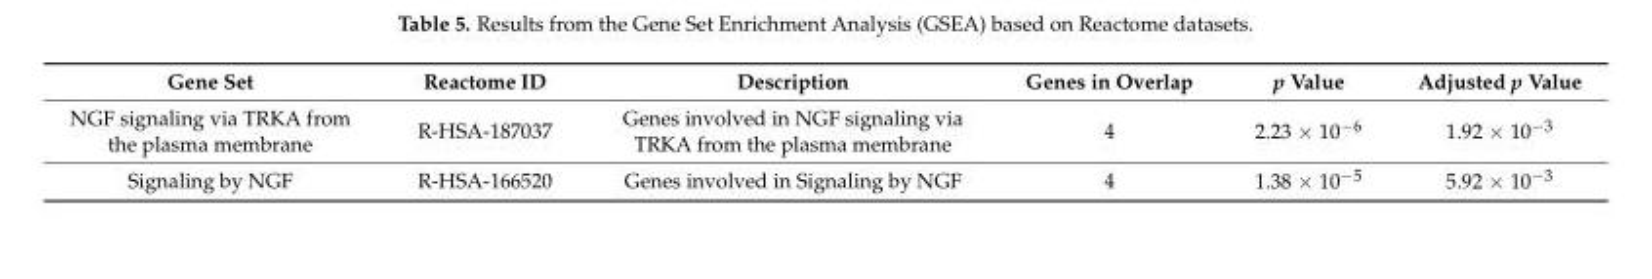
<table><thead><tr><td>Gene Set</td><td>Reactome ID</td><td>Description</td><td>Genes in Overlap</td><td>p Value</td><td>Adjusted p Value</td></tr></thead><tbody><tr><td>NGF signaling via TRKA from the plasma membrane</td><td>R-HSA-187037</td><td>Genes involved in NGF signaling via TRKA from the plasma membrane</td><td>4</td><td>2.23 × 10<sup>−6</sup></td><td>1.92 × 10<sup>−3</sup></td></tr><tr><td>Signaling by NGF</td><td>R-HSA-166520</td><td>Genes involved in Signaling by NGF</td><td>4</td><td>1.38 × 10<sup>−5</sup></td><td>5.92 × 10<sup>−3</sup></td></tr></tbody></table>